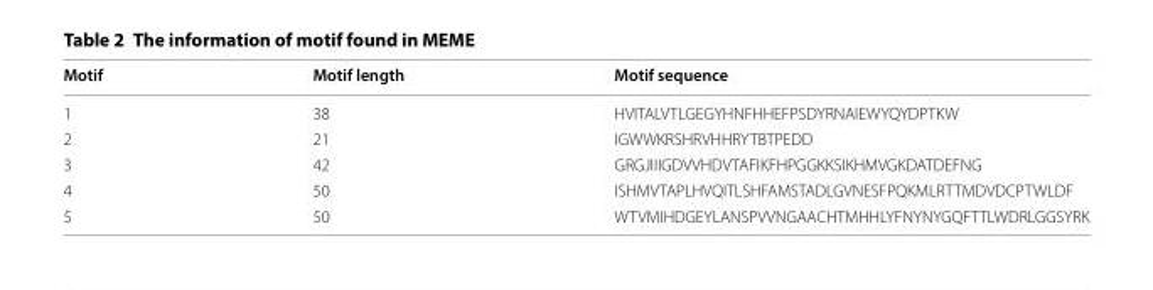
<table><thead><tr><td>Motif</td><td>Motif length</td><td>Motif sequence</td></tr></thead><tbody><tr><td>1</td><td>38</td><td>HVITALVTLGEGYHNFHHEFPSDYRNAIEWYQYDPTKW</td></tr><tr><td>2</td><td>21</td><td>IGWWKRSHRVHHRYTBTPEDD</td></tr><tr><td>3</td><td>42</td><td>GRGJIIIGDVVHDVTAFIKFHPGGKKSIKHMVGKDATDEFNG</td></tr><tr><td>4</td><td>50</td><td>ISHMVTAPLHVQITLSHFAMSTADLGVNESFPQKMLRTTMDVDCPTWLDF</td></tr><tr><td>5</td><td>50</td><td>WTVMIHDGEYLANSPVVNGAACHTMHHLYFNYNYGQFTTLWDRLGGSYRK</td></tr></tbody></table>